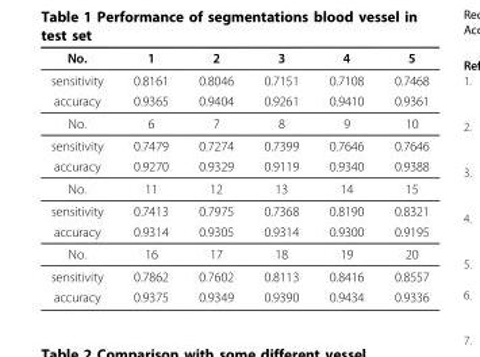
<table><thead><tr><td>No.</td><td>1</td><td>2</td><td>3</td><td>4</td><td>5</td></tr></thead><tbody><tr><td>sensitivity</td><td>0.8161</td><td>0.8046</td><td>0.7151</td><td>0.7108</td><td>0.7468</td></tr><tr><td>accuracy</td><td>0.9365</td><td>0.9404</td><td>0.9261</td><td>0.9410</td><td>0.9361</td></tr><tr><td>No.</td><td>6</td><td>7</td><td>8</td><td>9</td><td>10</td></tr><tr><td>sensitivity</td><td>0.7479</td><td>0.7274</td><td>0.7399</td><td>0.7646</td><td>0.7646</td></tr><tr><td>accuracy</td><td>0.9270</td><td>0.9329</td><td>0.9119</td><td>0.9340</td><td>0.9388</td></tr><tr><td>No.</td><td>11</td><td>12</td><td>13</td><td>14</td><td>15</td></tr><tr><td>sensitivity</td><td>0.7413</td><td>0.7975</td><td>0.7368</td><td>0.8190</td><td>0.8321</td></tr><tr><td>accuracy</td><td>0.9314</td><td>0.9305</td><td>0.9314</td><td>0.9300</td><td>0.9195</td></tr><tr><td>No.</td><td>16</td><td>17</td><td>18</td><td>19</td><td>20</td></tr><tr><td>sensitivity</td><td>0.7862</td><td>0.7602</td><td>0.8113</td><td>0.8416</td><td>0.8557</td></tr><tr><td>accuracy</td><td>0.9375</td><td>0.9349</td><td>0.9390</td><td>0.9434</td><td>0.9336</td></tr></tbody></table>